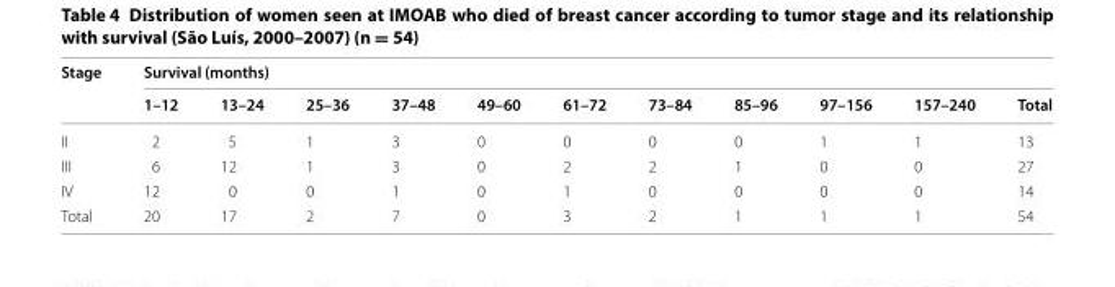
<table><thead><tr><td rowspan="2">Stage</td><td colspan="11">Survival (months)</td></tr><tr><td>1–12</td><td>13–24</td><td>25–36</td><td>37–48</td><td>49–60</td><td>61–72</td><td>73–84</td><td>85–96</td><td>97–156</td><td>157–240</td><td>Total</td></tr></thead><tbody><tr><td>II</td><td>2</td><td>5</td><td>1</td><td>3</td><td>0</td><td>0</td><td>0</td><td>0</td><td>1</td><td>1</td><td>13</td></tr><tr><td>III</td><td>6</td><td>12</td><td>1</td><td>3</td><td>0</td><td>2</td><td>2</td><td>1</td><td>0</td><td>0</td><td>27</td></tr><tr><td>IV</td><td>12</td><td>0</td><td>0</td><td>1</td><td>0</td><td>1</td><td>0</td><td>0</td><td>0</td><td>0</td><td>14</td></tr><tr><td>Total</td><td>20</td><td>17</td><td>2</td><td>7</td><td>0</td><td>3</td><td>2</td><td>1</td><td>1</td><td>1</td><td>54</td></tr></tbody></table>